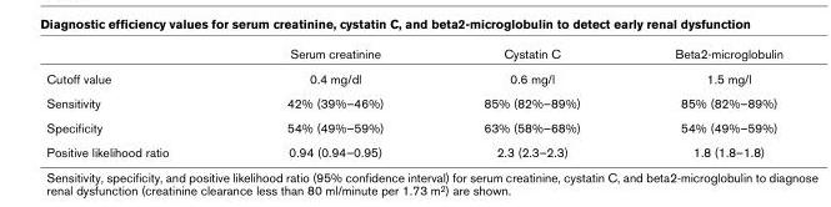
<table><thead><tr><td></td><td>Serum creatinine</td><td>Cystatin C</td><td>Beta2-microglobulin</td></tr></thead><tbody><tr><td>Cutoff value</td><td>0.4 mg/dl</td><td>0.6 mg/l</td><td>1.5 mg/l</td></tr><tr><td>Sensitivity</td><td>42% (39%–46%)</td><td>85% (82%–89%)</td><td>85% (82%–89%)</td></tr><tr><td>Specificity</td><td>54% (49%–59%)</td><td>63% (58%–68%)</td><td>54% (49%–59%)</td></tr><tr><td>Positive likelihood ratio</td><td>0.94 (0.94–0.95)</td><td>2.3 (2.3–2.3)</td><td>1.8 (1.8–1.8)</td></tr></tbody></table>